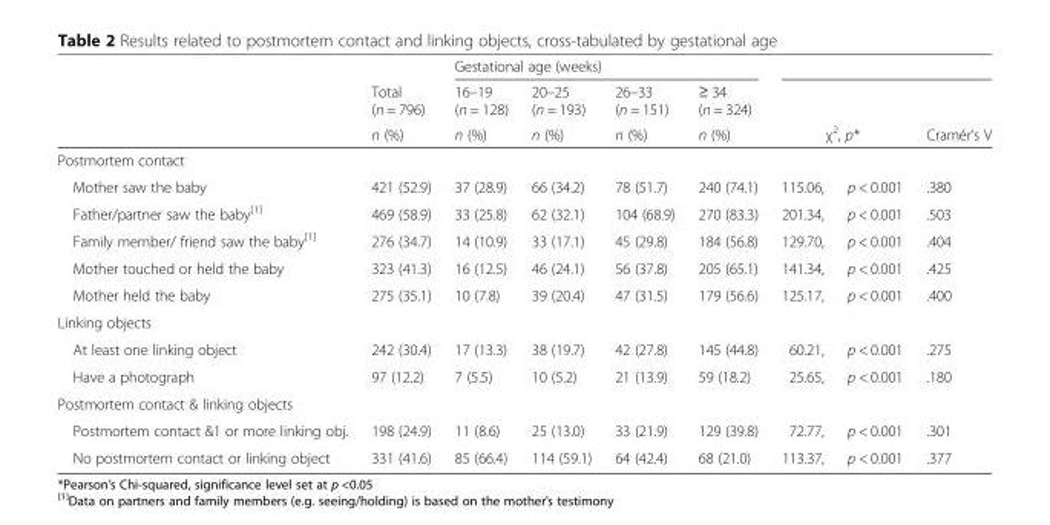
<table><thead><tr><td rowspan="3"></td><td rowspan="3">Total (n = 796) n (%)</td><td colspan="4">Gestational age (weeks)</td><td rowspan="2"></td><td rowspan="2"></td><td rowspan="3">Cramér’s V</td></tr><tr><td rowspan="2">16–19 (n = 128) n (%)</td><td rowspan="2">20–25 (n = 193) n (%)</td><td rowspan="2">26–33 (n = 151) n (%)</td><td rowspan="2">≥ 34 (n = 324) n (%)</td></tr><tr><td colspan="2">χ<sup>2</sup>, p*</td></tr></thead><tbody><tr><td colspan="9">Postmortem contact</td></tr><tr><td>Mother saw the baby</td><td>421 (52.9)</td><td>37 (28.9)</td><td>66 (34.2)</td><td>78 (51.7)</td><td>240 (74.1)</td><td>115.06,</td><td>p &lt; 0.001</td><td>.380</td></tr><tr><td>Father/partner saw the baby<sup>[1]</sup></td><td>469 (58.9)</td><td>33 (25.8)</td><td>62 (32.1)</td><td>104 (68.9)</td><td>270 (83.3)</td><td>201.34,</td><td>p &lt; 0.001</td><td>.503</td></tr><tr><td>Family member/ friend saw the baby<sup>[1]</sup></td><td>276 (34.7)</td><td>14 (10.9)</td><td>33 (17.1)</td><td>45 (29.8)</td><td>184 (56.8)</td><td>129.70,</td><td>p &lt; 0.001</td><td>.404</td></tr><tr><td>Mother touched or held the baby</td><td>323 (41.3)</td><td>16 (12.5)</td><td>46 (24.1)</td><td>56 (37.8)</td><td>205 (65.1)</td><td>141.34,</td><td>p &lt; 0.001</td><td>.425</td></tr><tr><td>Mother held the baby</td><td>275 (35.1)</td><td>10 (7.8)</td><td>39 (20.4)</td><td>47 (31.5)</td><td>179 (56.6)</td><td>125.17,</td><td>p &lt; 0.001</td><td>.400</td></tr><tr><td colspan="9">Linking objects</td></tr><tr><td>At least one linking object</td><td>242 (30.4)</td><td>17 (13.3)</td><td>38 (19.7)</td><td>42 (27.8)</td><td>145 (44.8)</td><td>60.21,</td><td>p &lt; 0.001</td><td>.275</td></tr><tr><td>Have a photograph</td><td>97 (12.2)</td><td>7 (5.5)</td><td>10 (5.2)</td><td>21 (13.9)</td><td>59 (18.2)</td><td>25.65,</td><td>p &lt; 0.001</td><td>.180</td></tr><tr><td colspan="9">Postmortem contact &amp; linking objects</td></tr><tr><td>Postmortem contact &amp;1 or more linking obj.</td><td>198 (24.9)</td><td>11 (8.6)</td><td>25 (13.0)</td><td>33 (21.9)</td><td>129 (39.8)</td><td>72.77,</td><td>p &lt; 0.001</td><td>.301</td></tr><tr><td>No postmortem contact or linking object</td><td>331 (41.6)</td><td>85 (66.4)</td><td>114 (59.1)</td><td>64 (42.4)</td><td>68 (21.0)</td><td>113.37,</td><td>p &lt; 0.001</td><td>.377</td></tr></tbody></table>